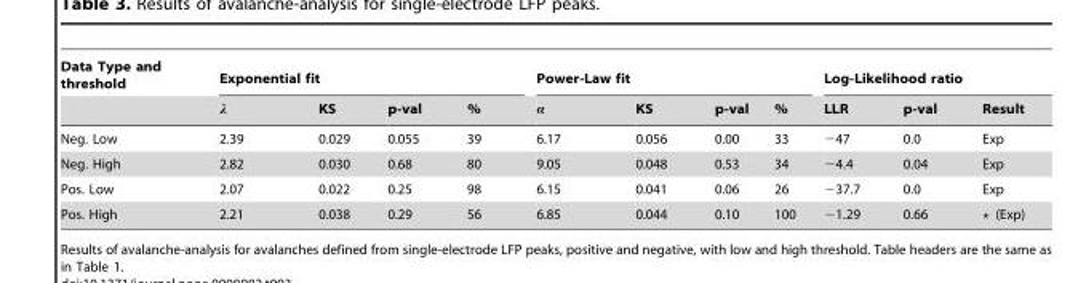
<table><thead><tr><td rowspan="2">Data Type and threshold</td><td colspan="4">Exponential fit</td><td colspan="4">Power-Law fit</td><td colspan="3">Log-Likelihood ratio</td></tr><tr><td>l</td><td>KS</td><td>p-val</td><td>%</td><td>a</td><td>KS</td><td>p-val</td><td>%</td><td>LLR</td><td>p-val</td><td>Result</td></tr></thead><tbody><tr><td>Neg. Low</td><td>2.39</td><td>0.029</td><td>0.055</td><td>39</td><td>6.17</td><td>0.056</td><td>0.00</td><td>33</td><td>−47</td><td>0.0</td><td>Exp</td></tr><tr><td>Neg. High</td><td>2.82</td><td>0.030</td><td>0.68</td><td>80</td><td>9.05</td><td>0.048</td><td>0.53</td><td>34</td><td>−4.4</td><td>0.04</td><td>Exp</td></tr><tr><td>Pos. Low</td><td>2.07</td><td>0.022</td><td>0.25</td><td>98</td><td>6.15</td><td>0.041</td><td>0.06</td><td>26</td><td>−37.7</td><td>0.0</td><td>Exp</td></tr><tr><td>Pos. High</td><td>2.21</td><td>0.038</td><td>0.29</td><td>56</td><td>6.85</td><td>0.044</td><td>0.10</td><td>100</td><td>−1.29</td><td>0.66</td><td>? (Exp)</td></tr></tbody></table>